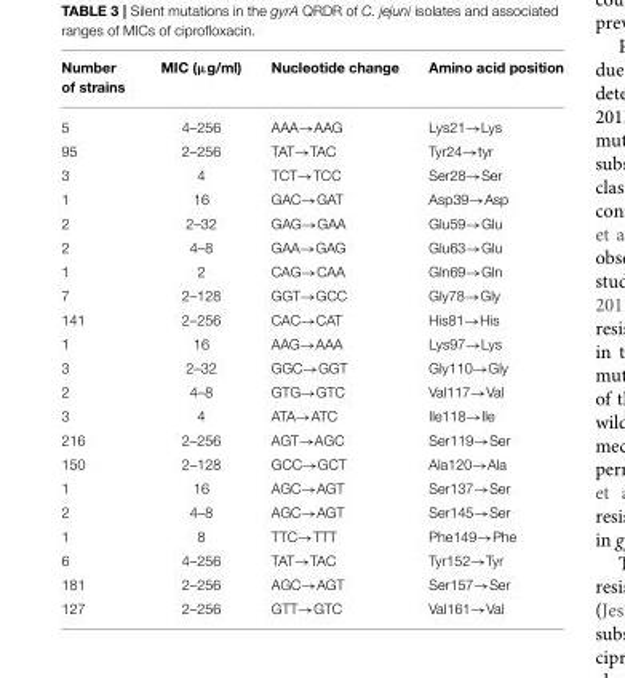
<table><thead><tr><td>Number of strains</td><td>MIC (µg/ml)</td><td>Nucleotide change</td><td>Amino acid position</td></tr></thead><tbody><tr><td>5</td><td>4–256</td><td>AAA→AAG</td><td>Lys21→Lys</td></tr><tr><td>95</td><td>2–256</td><td>TAT→TAC</td><td>Tyr24→tyr</td></tr><tr><td>3</td><td>4</td><td>TCT→TCC</td><td>Ser28→Ser</td></tr><tr><td>1</td><td>16</td><td>GAC→GAT</td><td>Asp39→Asp</td></tr><tr><td>2</td><td>2–32</td><td>GAG→GAA</td><td>Glu59→Glu</td></tr><tr><td>2</td><td>4–8</td><td>GAA→GAG</td><td>Glu63→Glu</td></tr><tr><td>1</td><td>2</td><td>CAG→CAA</td><td>Gln69→Gln</td></tr><tr><td>7</td><td>2–128</td><td>GGT→GCC</td><td>Gly78→Gly</td></tr><tr><td>141</td><td>2–256</td><td>CAC→CAT</td><td>His81→His</td></tr><tr><td>1</td><td>16</td><td>AAG→AAA</td><td>Lys97→Lys</td></tr><tr><td>3</td><td>2–32</td><td>GGC→GGT</td><td>Gly110→Gly</td></tr><tr><td>2</td><td>4–8</td><td>GTG→GTC</td><td>Val117→Val</td></tr><tr><td>3</td><td>4</td><td>ATA→ATC</td><td>Ile118→Ile</td></tr><tr><td>216</td><td>2–256</td><td>AGT→AGC</td><td>Ser119→Ser</td></tr><tr><td>150</td><td>2–128</td><td>GCC→GCT</td><td>Ala120→Ala</td></tr><tr><td>1</td><td>16</td><td>AGC→AGT</td><td>Ser137→Ser</td></tr><tr><td>2</td><td>4–8</td><td>AGC→AGT</td><td>Ser145→Ser</td></tr><tr><td>1</td><td>8</td><td>TTC→TTT</td><td>Phe149→Phe</td></tr><tr><td>6</td><td>4–256</td><td>TAT→TAC</td><td>Tyr152→Tyr</td></tr><tr><td>181</td><td>2–256</td><td>AGC→AGT</td><td>Ser157→Ser</td></tr><tr><td>127</td><td>2–256</td><td>GTT→GTC</td><td>Val161→Val</td></tr></tbody></table>